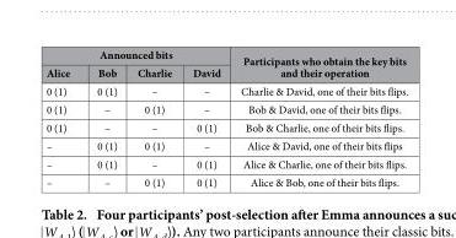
<table><thead><tr><td colspan="4">Announced bits</td><td rowspan="2">Participants who obtain the key bits and their operation</td></tr><tr><td>Alice</td><td>Bob</td><td>Charlie</td><td>David</td></tr></thead><tbody><tr><td>0 (1)</td><td>0 (1)</td><td>–</td><td>–</td><td>Charlie &amp; David, one of their bits flips.</td></tr><tr><td>0 (1)</td><td>–</td><td>0 (1)</td><td>–</td><td>Bob &amp; David, one of their bits flips.</td></tr><tr><td>0 (1)</td><td>–</td><td>–</td><td>0 (1)</td><td>Bob &amp; Charlie, one of their bits flips.</td></tr><tr><td>–</td><td>0 (1)</td><td>0 (1)</td><td>–</td><td>Alice &amp; David, one of their bits flips</td></tr><tr><td>–</td><td>0 (1)</td><td>–</td><td>0 (1)</td><td>Alice &amp; Charlie, one of their bits flips.</td></tr><tr><td>–</td><td>–</td><td>0 (1)</td><td>0 (1)</td><td>Alice &amp; Bob, one of their bits flips.</td></tr></tbody></table>